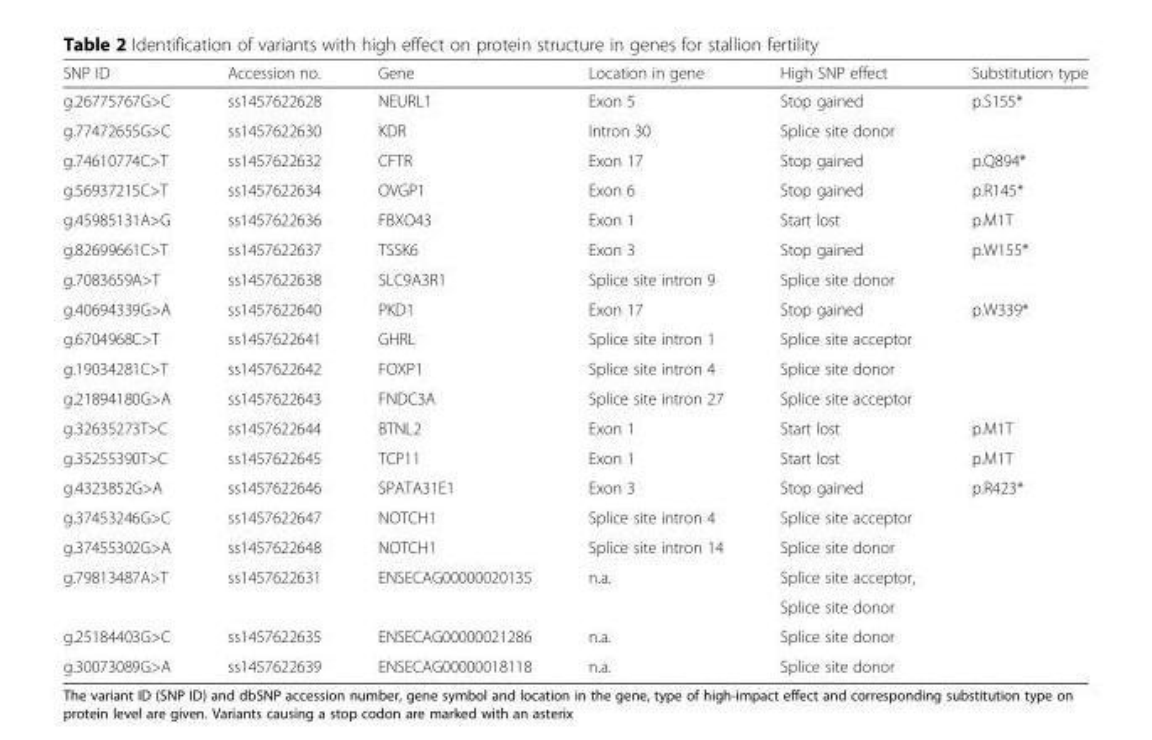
<table><thead><tr><td>SNP ID</td><td>Accession no.</td><td>Gene</td><td>Location in gene</td><td>High SNP effect</td><td>Substitution type</td></tr></thead><tbody><tr><td>g.26775767G&gt;C</td><td>ss1457622628</td><td>NEURL1</td><td>Exon 5</td><td>Stop gained</td><td>p.S155*</td></tr><tr><td>g.77472655G&gt;C</td><td>ss1457622630</td><td>KDR</td><td>Intron 30</td><td>Splice site donor</td><td></td></tr><tr><td>g.74610774C&gt;T</td><td>ss1457622632</td><td>CFTR</td><td>Exon 17</td><td>Stop gained</td><td>p.Q894*</td></tr><tr><td>g.56937215C&gt;T</td><td>ss1457622634</td><td>OVGP1</td><td>Exon 6</td><td>Stop gained</td><td>p.R145*</td></tr><tr><td>g.45985131A&gt;G</td><td>ss1457622636</td><td>FBXO43</td><td>Exon 1</td><td>Start lost</td><td>p.M1T</td></tr><tr><td>g.82699661C&gt;T</td><td>ss1457622637</td><td>TSSK6</td><td>Exon 3</td><td>Stop gained</td><td>p.W155*</td></tr><tr><td>g.7083659A&gt;T</td><td>ss1457622638</td><td>SLC9A3R1</td><td>Splice site intron 9</td><td>Splice site donor</td><td></td></tr><tr><td>g.40694339G&gt;A</td><td>ss1457622640</td><td>PKD1</td><td>Exon 17</td><td>Stop gained</td><td>p.W339*</td></tr><tr><td>g.6704968C&gt;T</td><td>ss1457622641</td><td>GHRL</td><td>Splice site intron 1</td><td>Splice site acceptor</td><td></td></tr><tr><td>g.19034281C&gt;T</td><td>ss1457622642</td><td>FOXP1</td><td>Splice site intron 4</td><td>Splice site donor</td><td></td></tr><tr><td>g.21894180G&gt;A</td><td>ss1457622643</td><td>FNDC3A</td><td>Splice site intron 27</td><td>Splice site acceptor</td><td></td></tr><tr><td>g.32635273T&gt;C</td><td>ss1457622644</td><td>BTNL2</td><td>Exon 1</td><td>Start lost</td><td>p.M1T</td></tr><tr><td>g.35255390T&gt;C</td><td>ss1457622645</td><td>TCP11</td><td>Exon 1</td><td>Start lost</td><td>p.M1T</td></tr><tr><td>g.4323852G&gt;A</td><td>ss1457622646</td><td>SPATA31E1</td><td>Exon 3</td><td>Stop gained</td><td>p.R423*</td></tr><tr><td>g.37453246G&gt;C</td><td>ss1457622647</td><td>NOTCH1</td><td>Splice site intron 4</td><td>Splice site acceptor</td><td></td></tr><tr><td>g.37455302G&gt;A</td><td>ss1457622648</td><td>NOTCH1</td><td>Splice site intron 14</td><td>Splice site donor</td><td></td></tr><tr><td rowspan="2">g.79813487A&gt;T</td><td>ss1457622631</td><td>ENSECAG00000020135</td><td>n.a.</td><td>Splice site acceptor,</td><td></td></tr><tr><td></td><td></td><td></td><td>Splice site donor</td><td></td></tr><tr><td>g.25184403G&gt;C</td><td>ss1457622635</td><td>ENSECAG00000021286</td><td>n.a.</td><td>Splice site donor</td><td></td></tr><tr><td>g.30073089G&gt;A</td><td>ss1457622639</td><td>ENSECAG00000018118</td><td>n.a.</td><td>Splice site donor</td><td></td></tr></tbody></table>